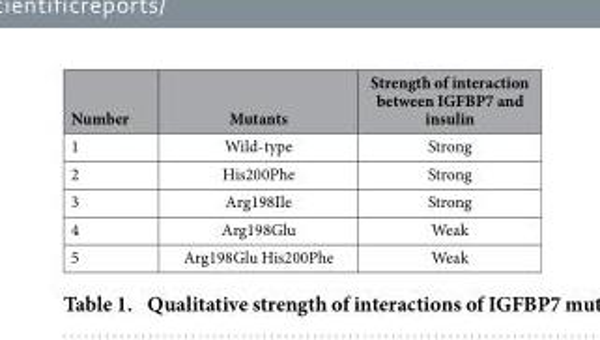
<table><thead><tr><td>Number</td><td>Mutants</td><td>Strength of interaction between IGFBP7 and insulin</td></tr></thead><tbody><tr><td>1</td><td>Wild-type</td><td>Strong</td></tr><tr><td>2</td><td>His200Phe</td><td>Strong</td></tr><tr><td>3</td><td>Arg198Ile</td><td>Strong</td></tr><tr><td>4</td><td>Arg198Glu</td><td>Weak</td></tr><tr><td>5</td><td>Arg198Glu His200Phe</td><td>Weak</td></tr></tbody></table>